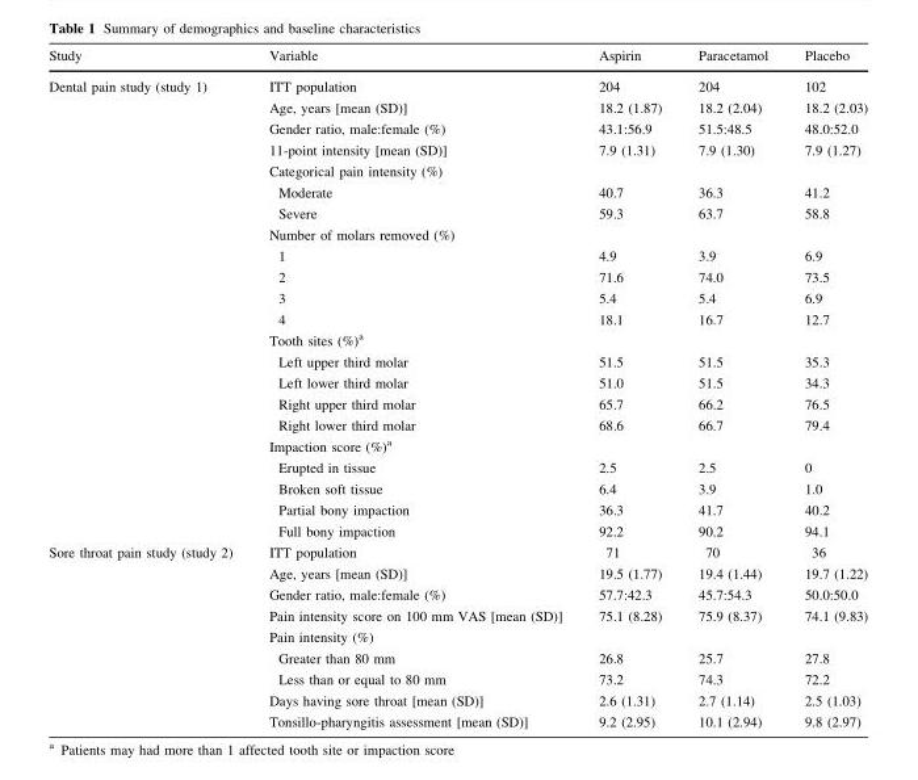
<table><thead><tr><td>Study</td><td>Variable</td><td>Aspirin</td><td>Paracetamol</td><td>Placebo</td></tr></thead><tbody><tr><td rowspan="22">Dental pain study (study 1)</td><td>ITT population</td><td>204</td><td>204</td><td>102</td></tr><tr><td>Age, years [mean (SD)]</td><td>18.2 (1.87)</td><td>18.2 (2.04)</td><td>18.2 (2.03)</td></tr><tr><td>Gender ratio, male:female (%)</td><td>43.1:56.9</td><td>51.5:48.5</td><td>48.0:52.0</td></tr><tr><td>11-point intensity [mean (SD)]</td><td>7.9 (1.31)</td><td>7.9 (1.30)</td><td>7.9 (1.27)</td></tr><tr><td colspan="4">Categorical pain intensity (%)</td></tr><tr><td>Moderate</td><td>40.7</td><td>36.3</td><td>41.2</td></tr><tr><td>Severe</td><td>59.3</td><td>63.7</td><td>58.8</td></tr><tr><td colspan="4">Number of molars removed (%)</td></tr><tr><td>1</td><td>4.9</td><td>3.9</td><td>6.9</td></tr><tr><td>2</td><td>71.6</td><td>74.0</td><td>73.5</td></tr><tr><td>3</td><td>5.4</td><td>5.4</td><td>6.9</td></tr><tr><td>4</td><td>18.1</td><td>16.7</td><td>12.7</td></tr><tr><td colspan="4">Tooth sites (%)<sup>a</sup></td></tr><tr><td>Left upper third molar</td><td>51.5</td><td>51.5</td><td>35.3</td></tr><tr><td>Left lower third molar</td><td>51.0</td><td>51.5</td><td>34.3</td></tr><tr><td>Right upper third molar</td><td>65.7</td><td>66.2</td><td>76.5</td></tr><tr><td>Right lower third molar</td><td>68.6</td><td>66.7</td><td>79.4</td></tr><tr><td colspan="4">Impaction score (%)<sup>a</sup></td></tr><tr><td>Erupted in tissue</td><td>2.5</td><td>2.5</td><td>0</td></tr><tr><td>Broken soft tissue</td><td>6.4</td><td>3.9</td><td>1.0</td></tr><tr><td>Partial bony impaction</td><td>36.3</td><td>41.7</td><td>40.2</td></tr><tr><td>Full bony impaction</td><td>92.2</td><td>90.2</td><td>94.1</td></tr><tr><td rowspan="9">Sore throat pain study (study 2)</td><td>ITT population</td><td>71</td><td>70</td><td>36</td></tr><tr><td>Age, years [mean (SD)]</td><td>19.5 (1.77)</td><td>19.4 (1.44)</td><td>19.7 (1.22)</td></tr><tr><td>Gender ratio, male:female (%)</td><td>57.7:42.3</td><td>45.7:54.3</td><td>50.0:50.0</td></tr><tr><td>Pain intensity score on 100 mm VAS [mean (SD)]</td><td>75.1 (8.28)</td><td>75.9 (8.37)</td><td>74.1 (9.83)</td></tr><tr><td colspan="4">Pain intensity (%)</td></tr><tr><td>Greater than 80 mm</td><td>26.8</td><td>25.7</td><td>27.8</td></tr><tr><td>Less than or equal to 80 mm</td><td>73.2</td><td>74.3</td><td>72.2</td></tr><tr><td>Days having sore throat [mean (SD)]</td><td>2.6 (1.31)</td><td>2.7 (1.14)</td><td>2.5 (1.03)</td></tr><tr><td>Tonsillo-pharyngitis assessment [mean (SD)]</td><td>9.2 (2.95)</td><td>10.1 (2.94)</td><td>9.8 (2.97)</td></tr></tbody></table>